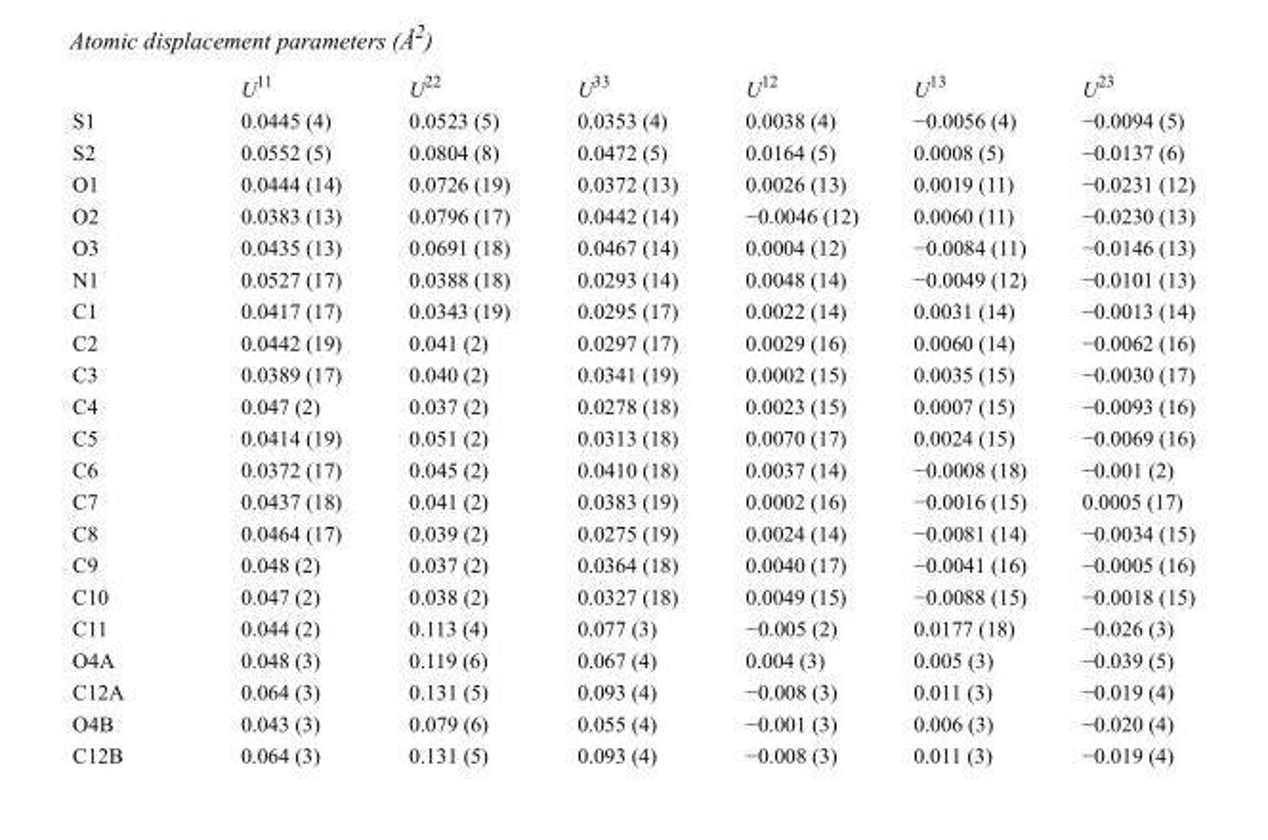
<table><thead><tr><td></td><td>U<sup>11</sup></td><td>U<sup>22</sup></td><td>U<sup>33</sup></td><td>U<sup>12</sup></td><td>U<sup>13</sup></td><td>U<sup>23</sup></td></tr></thead><tbody><tr><td>S1</td><td>0.0445 (4)</td><td>0.0523 (5)</td><td>0.0353 (4)</td><td>0.0038 (4)</td><td>−0.0056 (4)</td><td>−0.0094 (5)</td></tr><tr><td>S2</td><td>0.0552 (5)</td><td>0.0804 (8)</td><td>0.0472 (5)</td><td>0.0164 (5)</td><td>0.0008 (5)</td><td>−0.0137 (6)</td></tr><tr><td>O1</td><td>0.0444 (14)</td><td>0.0726 (19)</td><td>0.0372 (13)</td><td>0.0026 (13)</td><td>0.0019 (11)</td><td>−0.0231 (12)</td></tr><tr><td>O2</td><td>0.0383 (13)</td><td>0.0796 (17)</td><td>0.0442 (14)</td><td>−0.0046 (12)</td><td>0.0060 (11)</td><td>−0.0230 (13)</td></tr><tr><td>O3</td><td>0.0435 (13)</td><td>0.0691 (18)</td><td>0.0467 (14)</td><td>0.0004 (12)</td><td>−0.0084 (11)</td><td>−0.0146 (13)</td></tr><tr><td>N1</td><td>0.0527 (17)</td><td>0.0388 (18)</td><td>0.0293 (14)</td><td>0.0048 (14)</td><td>−0.0049 (12)</td><td>−0.0101 (13)</td></tr><tr><td>C1</td><td>0.0417 (17)</td><td>0.0343 (19)</td><td>0.0295 (17)</td><td>0.0022 (14)</td><td>0.0031 (14)</td><td>−0.0013 (14)</td></tr><tr><td>C2</td><td>0.0442 (19)</td><td>0.041 (2)</td><td>0.0297 (17)</td><td>0.0029 (16)</td><td>0.0060 (14)</td><td>−0.0062 (16)</td></tr><tr><td>C3</td><td>0.0389 (17)</td><td>0.040 (2)</td><td>0.0341 (19)</td><td>0.0002 (15)</td><td>0.0035 (15)</td><td>−0.0030 (17)</td></tr><tr><td>C4</td><td>0.047 (2)</td><td>0.037 (2)</td><td>0.0278 (18)</td><td>0.0023 (15)</td><td>0.0007 (15)</td><td>−0.0093 (16)</td></tr><tr><td>C5</td><td>0.0414 (19)</td><td>0.051 (2)</td><td>0.0313 (18)</td><td>0.0070 (17)</td><td>0.0024 (15)</td><td>−0.0069 (16)</td></tr><tr><td>C6</td><td>0.0372 (17)</td><td>0.045 (2)</td><td>0.0410 (18)</td><td>0.0037 (14)</td><td>−0.0008 (18)</td><td>−0.001 (2)</td></tr><tr><td>C7</td><td>0.0437 (18)</td><td>0.041 (2)</td><td>0.0383 (19)</td><td>0.0002 (16)</td><td>−0.0016 (15)</td><td>0.0005 (17)</td></tr><tr><td>C8</td><td>0.0464 (17)</td><td>0.039 (2)</td><td>0.0275 (19)</td><td>0.0024 (14)</td><td>−0.0081 (14)</td><td>−0.0034 (15)</td></tr><tr><td>C9</td><td>0.048 (2)</td><td>0.037 (2)</td><td>0.0364 (18)</td><td>0.0040 (17)</td><td>−0.0041 (16)</td><td>−0.0005 (16)</td></tr><tr><td>C10</td><td>0.047 (2)</td><td>0.038 (2)</td><td>0.0327 (18)</td><td>0.0049 (15)</td><td>−0.0088 (15)</td><td>−0.0018 (15)</td></tr><tr><td>C11</td><td>0.044 (2)</td><td>0.113 (4)</td><td>0.077 (3)</td><td>−0.005 (2)</td><td>0.0177 (18)</td><td>−0.026 (3)</td></tr><tr><td>O4A</td><td>0.048 (3)</td><td>0.119 (6)</td><td>0.067 (4)</td><td>0.004 (3)</td><td>0.005 (3)</td><td>−0.039 (5)</td></tr><tr><td>C12A</td><td>0.064 (3)</td><td>0.131 (5)</td><td>0.093 (4)</td><td>−0.008 (3)</td><td>0.011 (3)</td><td>−0.019 (4)</td></tr><tr><td>O4B</td><td>0.043 (3)</td><td>0.079 (6)</td><td>0.055 (4)</td><td>−0.001 (3)</td><td>0.006 (3)</td><td>−0.020 (4)</td></tr><tr><td>C12B</td><td>0.064 (3)</td><td>0.131 (5)</td><td>0.093 (4)</td><td>−0.008 (3)</td><td>0.011 (3)</td><td>−0.019 (4)</td></tr></tbody></table>